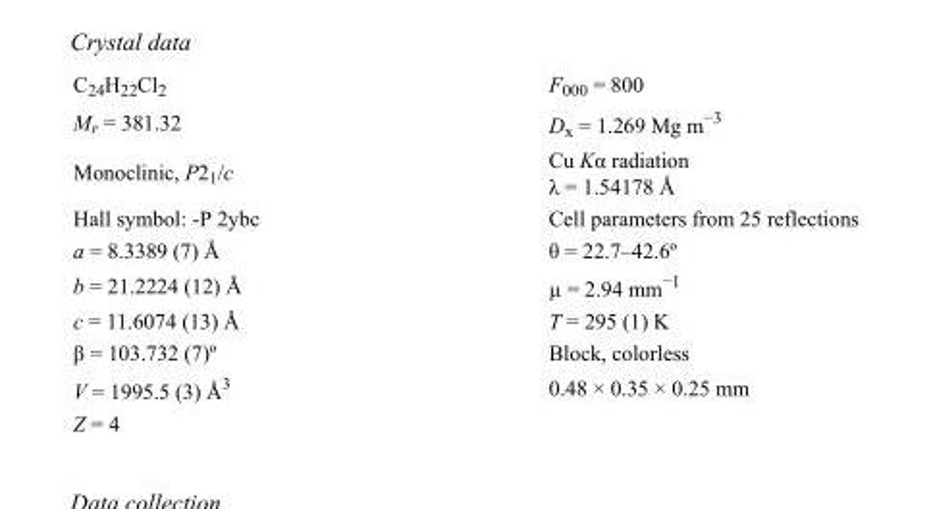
<table><tbody><tr><td>C<sub>24</sub>H<sub>22</sub>Cl<sub>2</sub></td><td>F<sub>000</sub> = 800</td></tr><tr><td>M<sub>r</sub> = 381.32</td><td>D<sub>x</sub> = 1.269 Mg m<sup>−3</sup></td></tr><tr><td>Monoclinic, P2<sub>1</sub>/c</td><td>Cu Kα radiation λ = 1.54178 Å</td></tr><tr><td>Hall symbol: -P 2ybc</td><td>Cell parameters from 25 reflections</td></tr><tr><td>a = 8.3389 (7) Å</td><td>θ = 22.7–42.6º</td></tr><tr><td>b = 21.2224 (12) Å</td><td>µ = 2.94 mm<sup>−1</sup></td></tr><tr><td>c = 11.6074 (13) Å</td><td>T = 295 (1) K</td></tr><tr><td>β = 103.732 (7)º</td><td>Block, colorless</td></tr><tr><td>V = 1995.5 (3) Å<sup>3</sup></td><td>0.48 × 0.35 × 0.25 mm</td></tr><tr><td>Z = 4</td><td></td></tr></tbody></table>